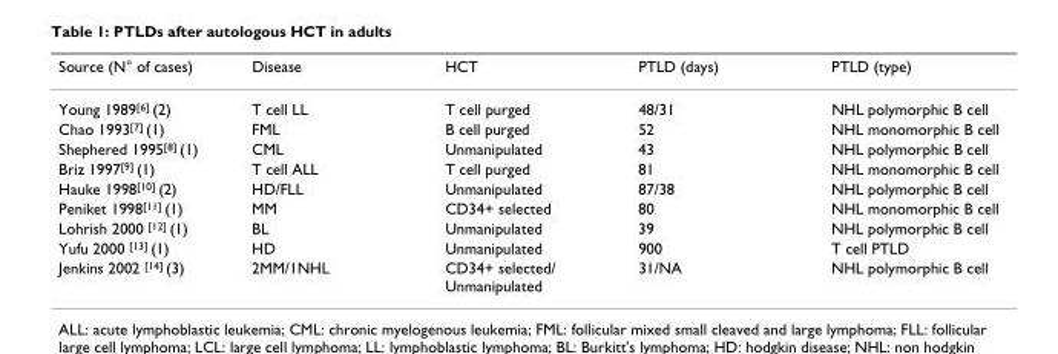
<table><thead><tr><td>Source (N° of cases)</td><td>Disease</td><td>HCT</td><td>PTLD (days)</td><td>PTLD (type)</td></tr></thead><tbody><tr><td>Young 1989[6] (2)</td><td>T cell LL</td><td>T cell purged</td><td>48/31</td><td>NHL polymorphic B cell</td></tr><tr><td>Chao 1993[7] (1)</td><td>FML</td><td>B cell purged</td><td>52</td><td>NHL monomorphic B cell</td></tr><tr><td>Shephered 1995[8] (1)</td><td>CML</td><td>Unmanipulated</td><td>43</td><td>NHL polymorphic B cell</td></tr><tr><td>Briz 1997[9] (1)</td><td>T cell ALL</td><td>T cell purged</td><td>81</td><td>NHL monomorphic B cell</td></tr><tr><td>Hauke 1998[10] (2)</td><td>HD/FLL</td><td>Unmanipulated</td><td>87/38</td><td>NHL polymorphic B cell</td></tr><tr><td>Peniket 1998[11] (1)</td><td>MM</td><td>CD34+ selected</td><td>80</td><td>NHL monomorphic B cell</td></tr><tr><td>Lohrish 2000 [12] (1)</td><td>BL</td><td>Unmanipulated</td><td>39</td><td>NHL polymorphic B cell</td></tr><tr><td>Yufu 2000 [13] (1)</td><td>HD</td><td>Unmanipulated</td><td>900</td><td>T cell PTLD</td></tr><tr><td>Jenkins 2002 [14] (3)</td><td>2MM/1NHL</td><td>CD34+ selected/ Unmanipulated</td><td>31/NA</td><td>NHL polymorphic B cell</td></tr></tbody></table>